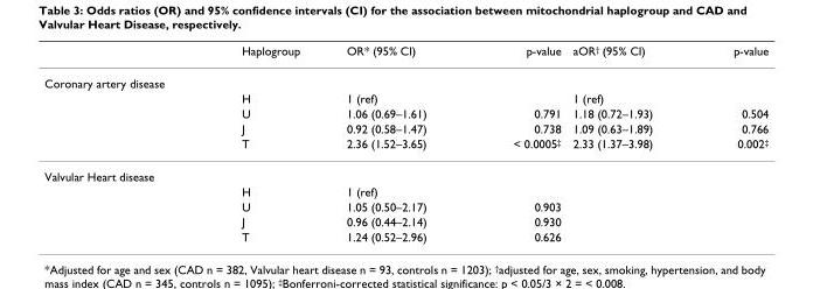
<table><thead><tr><td></td><td>Haplogroup</td><td>OR* (95% CI)</td><td>p-value</td><td>aOR<sup>†</sup> (95% CI)</td><td>p-value</td></tr></thead><tbody><tr><td colspan="6">Coronary artery disease</td></tr><tr><td></td><td>H</td><td>1 (ref)</td><td></td><td>1 (ref)</td><td></td></tr><tr><td></td><td>U</td><td>1.06 (0.69–1.61)</td><td>0.791</td><td>1.18 (0.72–1.93)</td><td>0.504</td></tr><tr><td></td><td>J</td><td>0.92 (0.58–1.47)</td><td>0.738</td><td>1.09 (0.63–1.89)</td><td>0.766</td></tr><tr><td></td><td>T</td><td>2.36 (1.52–3.65)</td><td>&lt; 0.0005<sup>‡</sup></td><td>2.33 (1.37–3.98)</td><td>0.002<sup>‡</sup></td></tr><tr><td colspan="6">Valvular Heart disease</td></tr><tr><td></td><td>H</td><td>1 (ref)</td><td></td><td></td><td></td></tr><tr><td></td><td>U</td><td>1.05 (0.50–2.17)</td><td>0.903</td><td></td><td></td></tr><tr><td></td><td>J</td><td>0.96 (0.44–2.14)</td><td>0.930</td><td></td><td></td></tr><tr><td></td><td>T</td><td>1.24 (0.52–2.96)</td><td>0.626</td><td></td><td></td></tr></tbody></table>